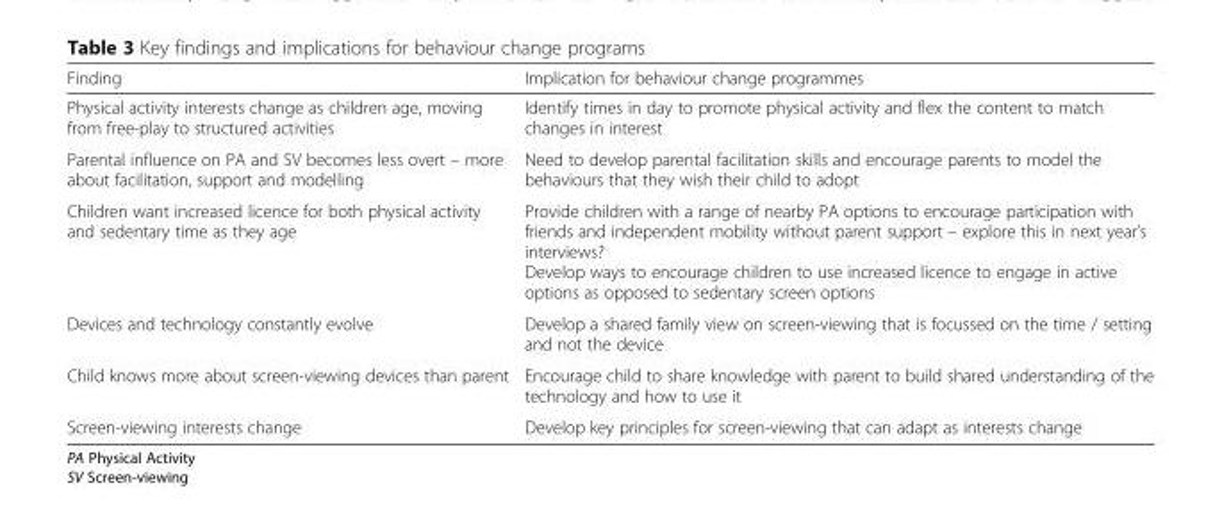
<table><thead><tr><td>Finding</td><td>Implication for behaviour change programmes</td></tr></thead><tbody><tr><td>Physical activity interests change as children age, moving from free-play to structured activities</td><td>Identify times in day to promote physical activity and flex the content to match changes in interest</td></tr><tr><td>Parental influence on PA and SV becomes less overt – more about facilitation, support and modelling</td><td>Need to develop parental facilitation skills and encourage parents to model the behaviours that they wish their child to adopt</td></tr><tr><td>Children want increased licence for both physical activity and sedentary time as they age</td><td>Provide children with a range of nearby PA options to encourage participation with friends and independent mobility without parent support – explore this in next year’s interviews? Develop ways to encourage children to use increased licence to engage in active options as opposed to sedentary screen options</td></tr><tr><td>Devices and technology constantly evolve</td><td>Develop a shared family view on screen-viewing that is focussed on the time / setting and not the device</td></tr><tr><td>Child knows more about screen-viewing devices than parent</td><td>Encourage child to share knowledge with parent to build shared understanding of the technology and how to use it</td></tr><tr><td>Screen-viewing interests change</td><td>Develop key principles for screen-viewing that can adapt as interests change</td></tr></tbody></table>